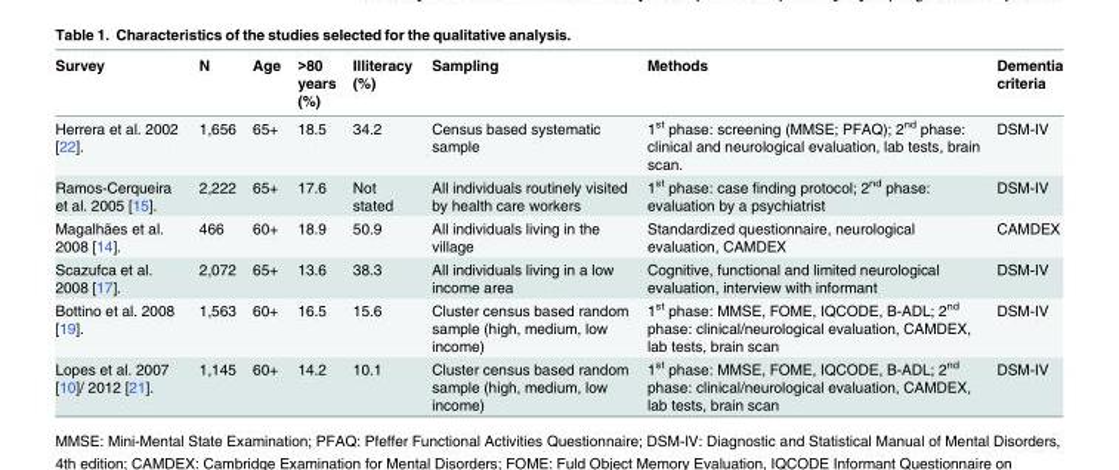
<table><thead><tr><td>Survey</td><td>N</td><td>Age</td><td>&gt;80 years (%)</td><td>Illiteracy (%)</td><td>Sampling</td><td>Methods</td><td>Dementia criteria</td></tr></thead><tbody><tr><td>Herrera et al. 2002 [22].</td><td>1,656</td><td>65+</td><td>18.5</td><td>34.2</td><td>Census based systematic sample</td><td>1<sup>st</sup> phase: screening (MMSE; PFAQ); 2<sup>nd</sup> phase: clinical and neurological evaluation, lab tests, brain scan.</td><td>DSM-IV</td></tr><tr><td>Ramos-Cerqueira et al. 2005 [15].</td><td>2,222</td><td>65+</td><td>17.6</td><td>Not stated</td><td>All individuals routinely visited by health care workers</td><td>1<sup>st</sup> phase: case finding protocol; 2<sup>nd</sup> phase: evaluation by a psychiatrist</td><td>DSM-IV</td></tr><tr><td>Magalhães et al. 2008 [14].</td><td>466</td><td>60+</td><td>18.9</td><td>50.9</td><td>All individuals living in the village</td><td>Standardized questionnaire, neurological evaluation, CAMDEX</td><td>CAMDEX</td></tr><tr><td>Scazufca et al. 2008 [17].</td><td>2,072</td><td>65+</td><td>13.6</td><td>38.3</td><td>All individuals living in a low income area</td><td>Cognitive, functional and limited neurological evaluation, interview with informant</td><td>DSM-IV</td></tr><tr><td>Bottino et al. 2008 [19].</td><td>1,563</td><td>60+</td><td>16.5</td><td>15.6</td><td>Cluster census based random sample (high, medium, low income)</td><td>1<sup>st</sup> phase: MMSE, FOME, IQCODE, B-ADL; 2<sup>nd</sup> phase: clinical/neurological evaluation, CAMDEX, lab tests, brain scan</td><td>DSM-IV</td></tr><tr><td>Lopes et al. 2007 [10]/ 2012 [21].</td><td>1,145</td><td>60+</td><td>14.2</td><td>10.1</td><td>Cluster census based random sample (high, medium, low income)</td><td>1<sup>st</sup> phase: MMSE, FOME, IQCODE, B-ADL; 2<sup>nd</sup> phase: clinical/neurological evaluation, CAMDEX, lab tests, brain scan</td><td>DSM-IV</td></tr></tbody></table>